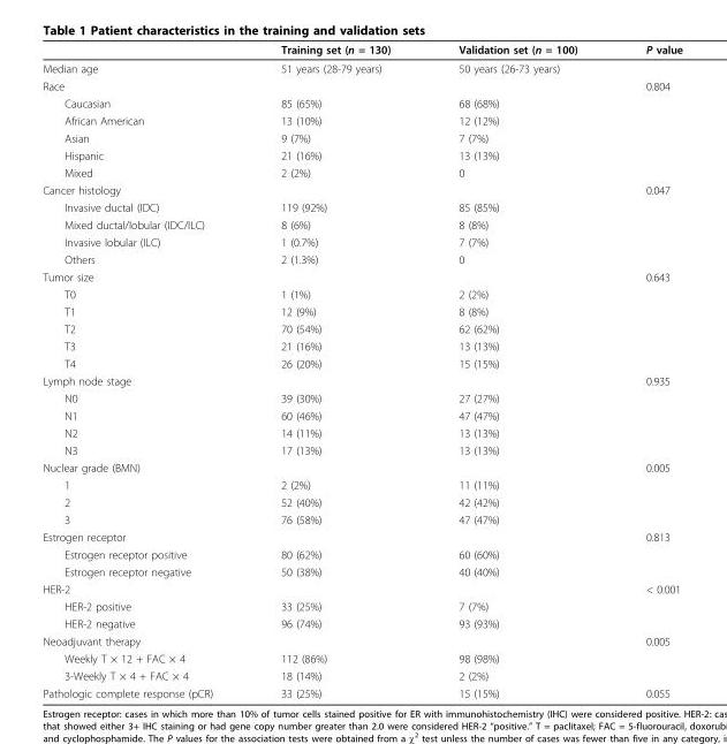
<table><thead><tr><td></td><td>Training set (n = 130)</td><td>Validation set (n = 100)</td><td>P value</td></tr></thead><tbody><tr><td>Median age</td><td>51 years (28-79 years)</td><td>50 years (26-73 years)</td><td></td></tr><tr><td>Race</td><td></td><td></td><td>0.804</td></tr><tr><td>Caucasian</td><td>85 (65%)</td><td>68 (68%)</td><td></td></tr><tr><td>African American</td><td>13 (10%)</td><td>12 (12%)</td><td></td></tr><tr><td>Asian</td><td>9 (7%)</td><td>7 (7%)</td><td></td></tr><tr><td>Hispanic</td><td>21 (16%)</td><td>13 (13%)</td><td></td></tr><tr><td>Mixed</td><td>2 (2%)</td><td>0</td><td></td></tr><tr><td>Cancer histology</td><td></td><td></td><td>0.047</td></tr><tr><td>Invasive ductal (IDC)</td><td>119 (92%)</td><td>85 (85%)</td><td></td></tr><tr><td>Mixed ductal/lobular (IDC/ILC)</td><td>8 (6%)</td><td>8 (8%)</td><td></td></tr><tr><td>Invasive lobular (ILC)</td><td>1 (0.7%)</td><td>7 (7%)</td><td></td></tr><tr><td>Others</td><td>2 (1.3%)</td><td>0</td><td></td></tr><tr><td>Tumor size</td><td></td><td></td><td>0.643</td></tr><tr><td>T0</td><td>1 (1%)</td><td>2 (2%)</td><td></td></tr><tr><td>T1</td><td>12 (9%)</td><td>8 (8%)</td><td></td></tr><tr><td>T2</td><td>70 (54%)</td><td>62 (62%)</td><td></td></tr><tr><td>T3</td><td>21 (16%)</td><td>13 (13%)</td><td></td></tr><tr><td>T4</td><td>26 (20%)</td><td>15 (15%)</td><td></td></tr><tr><td>Lymph node stage</td><td></td><td></td><td>0.935</td></tr><tr><td>N0</td><td>39 (30%)</td><td>27 (27%)</td><td></td></tr><tr><td>N1</td><td>60 (46%)</td><td>47 (47%)</td><td></td></tr><tr><td>N2</td><td>14 (11%)</td><td>13 (13%)</td><td></td></tr><tr><td>N3</td><td>17 (13%)</td><td>13 (13%)</td><td></td></tr><tr><td>Nuclear grade (BMN)</td><td></td><td></td><td>0.005</td></tr><tr><td>1</td><td>2 (2%)</td><td>11 (11%)</td><td></td></tr><tr><td>2</td><td>52 (40%)</td><td>42 (42%)</td><td></td></tr><tr><td>3</td><td>76 (58%)</td><td>47 (47%)</td><td></td></tr><tr><td>Estrogen receptor</td><td></td><td></td><td>0.813</td></tr><tr><td>Estrogen receptor positive</td><td>80 (62%)</td><td>60 (60%)</td><td></td></tr><tr><td>Estrogen receptor negative</td><td>50 (38%)</td><td>40 (40%)</td><td></td></tr><tr><td>HER-2</td><td></td><td></td><td>&lt; 0.001</td></tr><tr><td>HER-2 positive</td><td>33 (25%)</td><td>7 (7%)</td><td></td></tr><tr><td>HER-2 negative</td><td>96 (74%)</td><td>93 (93%)</td><td></td></tr><tr><td>Neoadjuvant therapy</td><td></td><td></td><td>0.005</td></tr><tr><td>Weekly T × 12 + FAC × 4</td><td>112 (86%)</td><td>98 (98%)</td><td></td></tr><tr><td>3-Weekly T × 4 + FAC × 4</td><td>18 (14%)</td><td>2 (2%)</td><td></td></tr><tr><td>Pathologic complete response (pCR)</td><td>33 (25%)</td><td>15 (15%)</td><td>0.055</td></tr></tbody></table>